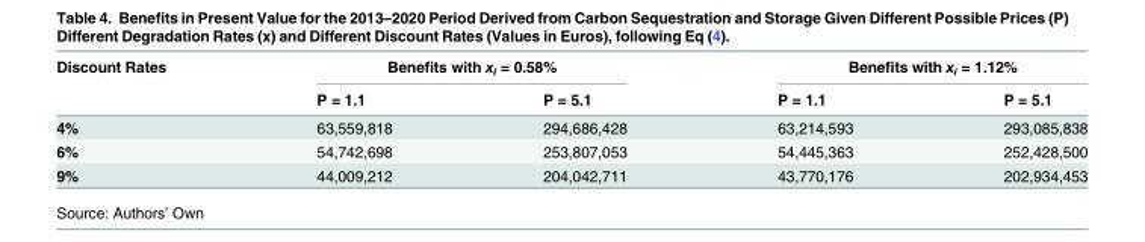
<table><thead><tr><td rowspan="2">Discount Rates</td><td colspan="2">Benefits with x<sub>i</sub> = 0.58%</td><td colspan="2">Benefits with x<sub>i</sub> = 1.12%</td></tr><tr><td>P = 1.1</td><td>P = 5.1</td><td>P = 1.1</td><td>P = 5.1</td></tr></thead><tbody><tr><td>4%</td><td>63,559,818</td><td>294,686,428</td><td>63,214,593</td><td>293,085,838</td></tr><tr><td>6%</td><td>54,742,698</td><td>253,807,053</td><td>54,445,363</td><td>252,428,500</td></tr><tr><td>9%</td><td>44,009,212</td><td>204,042,711</td><td>43,770,176</td><td>202,934,453</td></tr></tbody></table>